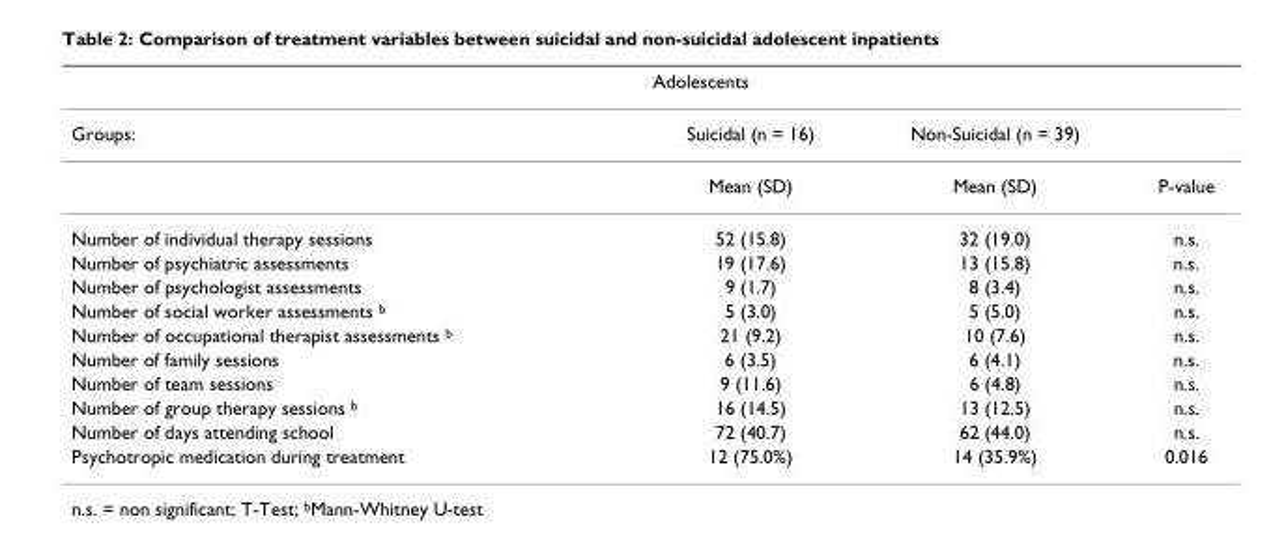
<table><thead><tr><td rowspan="2">Groups:</td><td colspan="3">Adolescents</td></tr><tr><td>Suicidal (n = 16)</td><td>Non-Suicidal (n = 39)</td><td></td></tr></thead><tbody><tr><td></td><td>Mean (SD)</td><td>Mean (SD)</td><td>P-value</td></tr><tr><td>Number of individual therapy sessions</td><td>52 (15.8)</td><td>32 (19.0)</td><td>n.s.</td></tr><tr><td>Number of psychiatric assessments</td><td>19 (17.6)</td><td>13 (15.8)</td><td>n.s.</td></tr><tr><td>Number of psychologist assessments</td><td>9 (1.7)</td><td>8 (3.4)</td><td>n.s.</td></tr><tr><td>Number of social worker assessments <sup>b</sup></td><td>5 (3.0)</td><td>5 (5.0)</td><td>n.s.</td></tr><tr><td>Number of occupational therapist assessments <sup>b</sup></td><td>21 (9.2)</td><td>10 (7.6)</td><td>n.s.</td></tr><tr><td>Number of family sessions</td><td>6 (3.5)</td><td>6 (4.1)</td><td>n.s.</td></tr><tr><td>Number of team sessions</td><td>9 (11.6)</td><td>6 (4.8)</td><td>n.s.</td></tr><tr><td>Number of group therapy sessions <sup>b</sup></td><td>16 (14.5)</td><td>13 (12.5)</td><td>n.s.</td></tr><tr><td>Number of days attending school</td><td>72 (40.7)</td><td>62 (44.0)</td><td>n.s.</td></tr><tr><td>Psychotropic medication during treatment</td><td>12 (75.0%)</td><td>14 (35.9%)</td><td>0.016</td></tr></tbody></table>